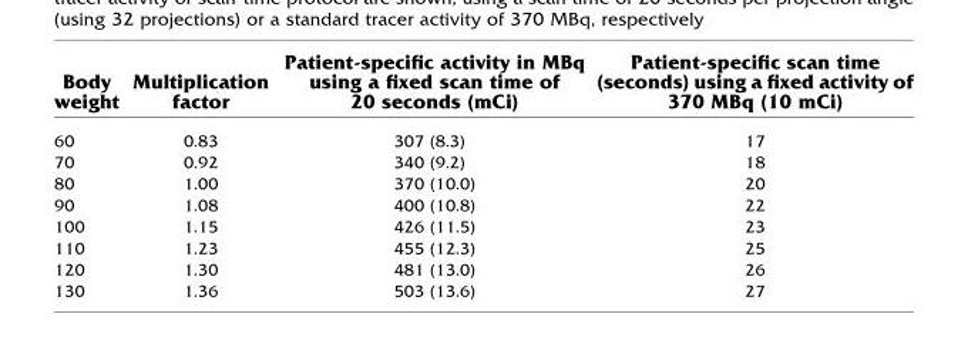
<table><thead><tr><td>Body weight</td><td>Multiplication factor</td><td>Patient-specific activity in MBq using a fixed scan time of 20 seconds (mCi)</td><td>Patient-specific scan time (seconds) using a fixed activity of 370 MBq (10 mCi)</td></tr></thead><tbody><tr><td>60</td><td>0.83</td><td>307 (8.3)</td><td>17</td></tr><tr><td>70</td><td>0.92</td><td>340 (9.2)</td><td>18</td></tr><tr><td>80</td><td>1.00</td><td>370 (10.0)</td><td>20</td></tr><tr><td>90</td><td>1.08</td><td>400 (10.8)</td><td>22</td></tr><tr><td>100</td><td>1.15</td><td>426 (11.5)</td><td>23</td></tr><tr><td>110</td><td>1.23</td><td>455 (12.3)</td><td>25</td></tr><tr><td>120</td><td>1.30</td><td>481 (13.0)</td><td>26</td></tr><tr><td>130</td><td>1.36</td><td>503 (13.6)</td><td>27</td></tr></tbody></table>